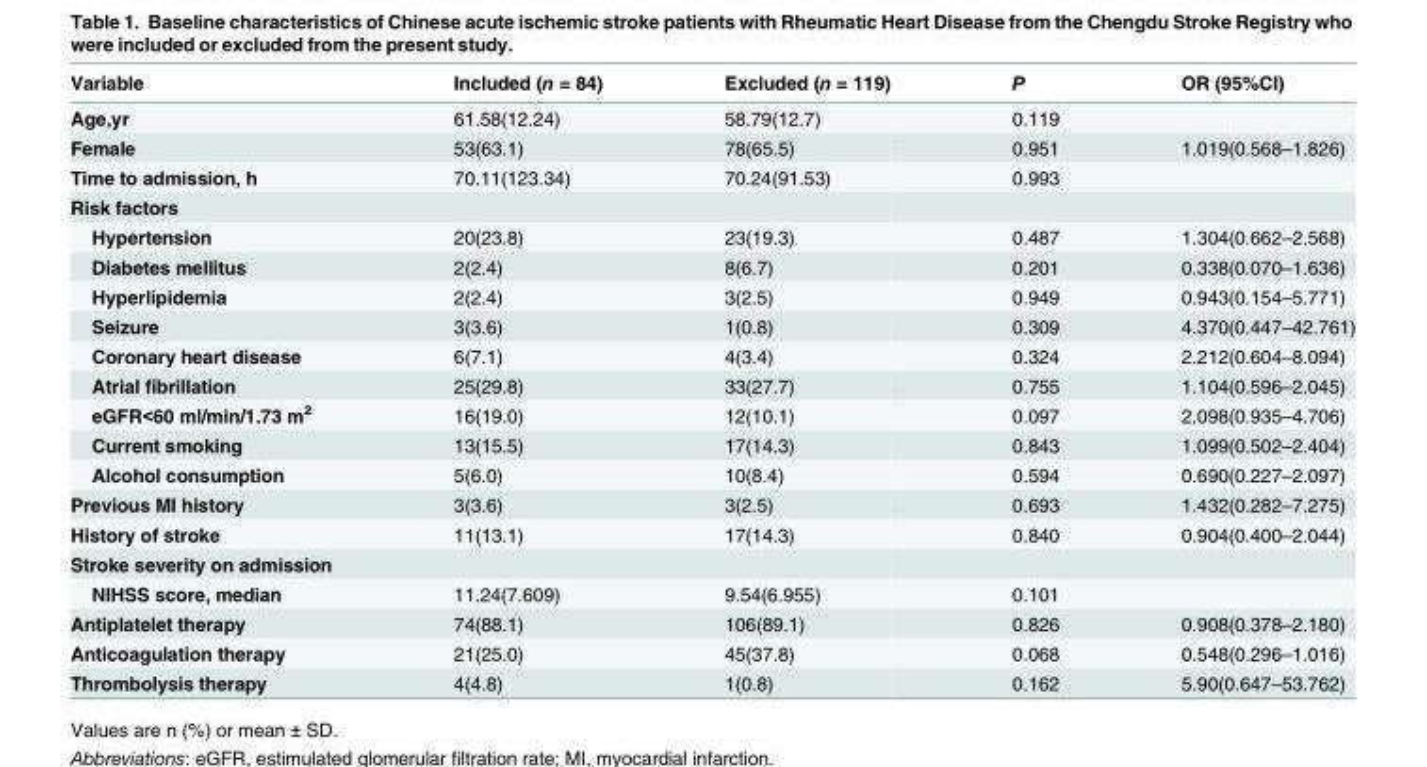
<table><thead><tr><td>Variable</td><td>Included (n = 84)</td><td>Excluded (n = 119)</td><td>P</td><td>OR (95%CI)</td></tr></thead><tbody><tr><td>Age,yr</td><td>61.58(12.24)</td><td>58.79(12.7)</td><td>0.119</td><td></td></tr><tr><td>Female</td><td>53(63.1)</td><td>78(65.5)</td><td>0.951</td><td>1.019(0.568–1.826)</td></tr><tr><td>Time to admission, h</td><td>70.11(123.34)</td><td>70.24(91.53)</td><td>0.993</td><td></td></tr><tr><td colspan="5">Risk factors</td></tr><tr><td>Hypertension</td><td>20(23.8)</td><td>23(19.3)</td><td>0.487</td><td>1.304(0.662–2.568)</td></tr><tr><td>Diabetes mellitus</td><td>2(2.4)</td><td>8(6.7)</td><td>0.201</td><td>0.338(0.070–1.636)</td></tr><tr><td>Hyperlipidemia</td><td>2(2.4)</td><td>3(2.5)</td><td>0.949</td><td>0.943(0.154–5.771)</td></tr><tr><td>Seizure</td><td>3(3.6)</td><td>1(0.8)</td><td>0.309</td><td>4.370(0.447–42.761)</td></tr><tr><td>Coronary heart disease</td><td>6(7.1)</td><td>4(3.4)</td><td>0.324</td><td>2.212(0.604–8.094)</td></tr><tr><td>Atrial fibrillation</td><td>25(29.8)</td><td>33(27.7)</td><td>0.755</td><td>1.104(0.596–2.045)</td></tr><tr><td>eGFR&lt;60 ml/min/1.73 m<sup>2</sup></td><td>16(19.0)</td><td>12(10.1)</td><td>0.097</td><td>2.098(0.935–4.706)</td></tr><tr><td>Current smoking</td><td>13(15.5)</td><td>17(14.3)</td><td>0.843</td><td>1.099(0.502–2.404)</td></tr><tr><td>Alcohol consumption</td><td>5(6.0)</td><td>10(8.4)</td><td>0.594</td><td>0.690(0.227–2.097)</td></tr><tr><td>Previous MI history</td><td>3(3.6)</td><td>3(2.5)</td><td>0.693</td><td>1.432(0.282–7.275)</td></tr><tr><td>History of stroke</td><td>11(13.1)</td><td>17(14.3)</td><td>0.840</td><td>0.904(0.400–2.044)</td></tr><tr><td colspan="5">Stroke severity on admission</td></tr><tr><td>NIHSS score, median</td><td>11.24(7.609)</td><td>9.54(6.955)</td><td>0.101</td><td></td></tr><tr><td>Antiplatelet therapy</td><td>74(88.1)</td><td>106(89.1)</td><td>0.826</td><td>0.908(0.378–2.180)</td></tr><tr><td>Anticoagulation therapy</td><td>21(25.0)</td><td>45(37.8)</td><td>0.068</td><td>0.548(0.296–1.016)</td></tr><tr><td>Thrombolysis therapy</td><td>4(4.8)</td><td>1(0.8)</td><td>0.162</td><td>5.90(0.647–53.762)</td></tr></tbody></table>